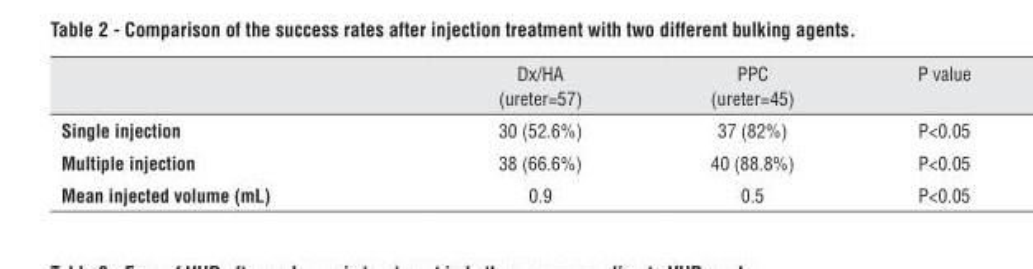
<table><thead><tr><td></td><td>Dx/HA (ureter=57)</td><td>PPC (ureter=45)</td><td>P value</td></tr></thead><tbody><tr><td>single injection</td><td>30 (52.6%)</td><td>37 (82%)</td><td>P&lt;0.05</td></tr><tr><td>Multiple injection</td><td>38 (66.6%)</td><td>40 (88.8%)</td><td>P&lt;0.05</td></tr><tr><td>Mean injected volume (mL)</td><td>0.9</td><td>0.5</td><td>P&lt;0.05</td></tr></tbody></table>